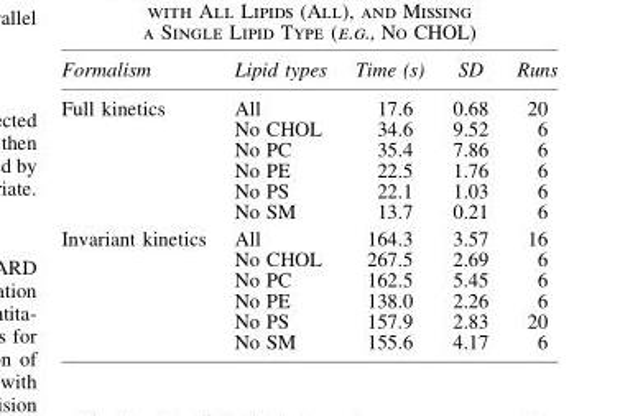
<table><thead><tr><td>Formalism</td><td>Lipid types</td><td>Time (s)</td><td>SD</td><td>Runs</td></tr></thead><tbody><tr><td rowspan="6">Full kinetics</td><td>All</td><td>17.6</td><td>0.68</td><td>20</td></tr><tr><td>No CHOL</td><td>34.6</td><td>9.52</td><td>6</td></tr><tr><td>No PC</td><td>35.4</td><td>7.86</td><td>6</td></tr><tr><td>No PE</td><td>22.5</td><td>1.76</td><td>6</td></tr><tr><td>No PS</td><td>22.1</td><td>1.03</td><td>6</td></tr><tr><td>No SM</td><td>13.7</td><td>0.21</td><td>6</td></tr><tr><td rowspan="6">Invariant kinetics</td><td>All</td><td>164.3</td><td>3.57</td><td>16</td></tr><tr><td>No CHOL</td><td>267.5</td><td>2.69</td><td>6</td></tr><tr><td>No PC</td><td>162.5</td><td>5.45</td><td>6</td></tr><tr><td>No PE</td><td>138.0</td><td>2.26</td><td>6</td></tr><tr><td>No PS</td><td>157.9</td><td>2.83</td><td>20</td></tr><tr><td>No SM</td><td>155.6</td><td>4.17</td><td>6</td></tr></tbody></table>